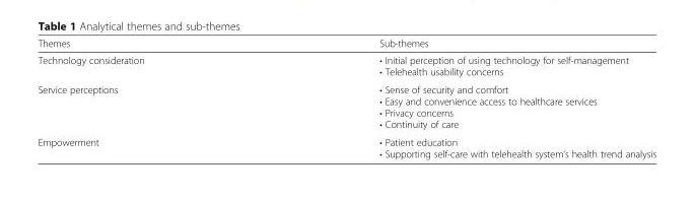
<table><thead><tr><td>Themes</td><td>Sub-themes</td></tr></thead><tbody><tr><td>Technology consideration</td><td>• Initial perception of using technology for self-management • Telehealth usability concerns</td></tr><tr><td>Service perceptions</td><td>• Sense of security and comfort • Easy and convenience access to healthcare services • Privacy concerns • Continuity of care</td></tr><tr><td>Empowerment</td><td>• Patient education • Supporting self-care with telehealth system’s health trend analysis</td></tr></tbody></table>